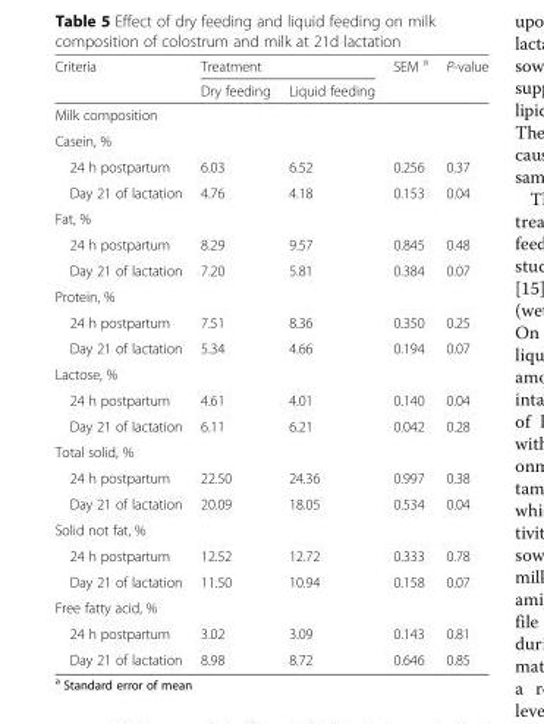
<table><thead><tr><td rowspan="2">Criteria</td><td colspan="2">Treatment</td><td rowspan="2">SEM <sup>a</sup></td><td rowspan="2">P-value</td></tr><tr><td>Dry feeding</td><td>Liquid feeding</td></tr></thead><tbody><tr><td colspan="5">Milk composition</td></tr><tr><td colspan="5">Casein, %</td></tr><tr><td>24 h postpartum</td><td>6.03</td><td>6.52</td><td>0.256</td><td>0.37</td></tr><tr><td>Day 21 of lactation</td><td>4.76</td><td>4.18</td><td>0.153</td><td>0.04</td></tr><tr><td colspan="5">Fat, %</td></tr><tr><td>24 h postpartum</td><td>8.29</td><td>9.57</td><td>0.845</td><td>0.48</td></tr><tr><td>Day 21 of lactation</td><td>7.20</td><td>5.81</td><td>0.384</td><td>0.07</td></tr><tr><td colspan="5">Protein, %</td></tr><tr><td>24 h postpartum</td><td>7.51</td><td>8.36</td><td>0.350</td><td>0.25</td></tr><tr><td>Day 21 of lactation</td><td>5.34</td><td>4.66</td><td>0.194</td><td>0.07</td></tr><tr><td colspan="5">Lactose, %</td></tr><tr><td>24 h postpartum</td><td>4.61</td><td>4.01</td><td>0.140</td><td>0.04</td></tr><tr><td>Day 21 of lactation</td><td>6.11</td><td>6.21</td><td>0.042</td><td>0.28</td></tr><tr><td colspan="5">Total solid, %</td></tr><tr><td>24 h postpartum</td><td>22.50</td><td>24.36</td><td>0.997</td><td>0.38</td></tr><tr><td>Day 21 of lactation</td><td>20.09</td><td>18.05</td><td>0.534</td><td>0.04</td></tr><tr><td colspan="5">Solid not fat, %</td></tr><tr><td>24 h postpartum</td><td>12.52</td><td>12.72</td><td>0.333</td><td>0.78</td></tr><tr><td>Day 21 of lactation</td><td>11.50</td><td>10.94</td><td>0.158</td><td>0.07</td></tr><tr><td colspan="5">Free fatty acid, %</td></tr><tr><td>24 h postpartum</td><td>3.02</td><td>3.09</td><td>0.143</td><td>0.81</td></tr><tr><td>Day 21 of lactation</td><td>8.98</td><td>8.72</td><td>0.646</td><td>0.85</td></tr></tbody></table>